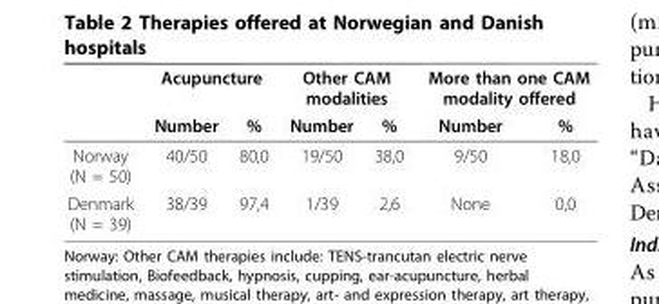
<table><thead><tr><td rowspan="2"></td><td colspan="2">Acupuncture</td><td colspan="2">Other CAM modalities</td><td colspan="2">More than one CAM modality offered</td></tr><tr><td>Number</td><td>%</td><td>Number</td><td>%</td><td>Number</td><td>%</td></tr></thead><tbody><tr><td>Norway (N = 50)</td><td>40/50</td><td>80,0</td><td>19/50</td><td>38,0</td><td>9/50</td><td>18,0</td></tr><tr><td>Denmark (N = 39)</td><td>38/39</td><td>97,4</td><td>1/39</td><td>2,6</td><td>None</td><td>0,0</td></tr></tbody></table>